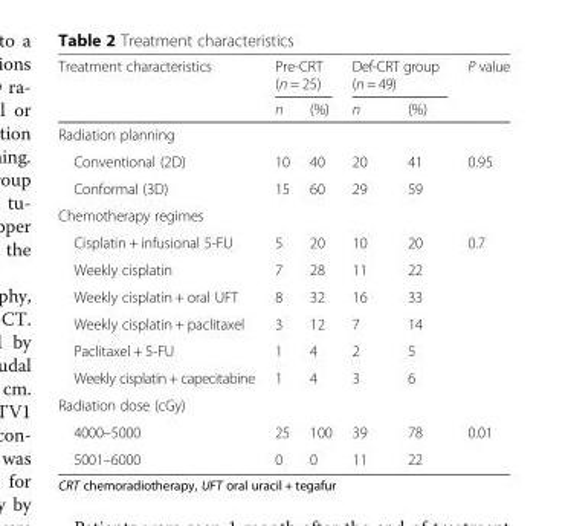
<table><thead><tr><td rowspan="2">Treatment characteristics</td><td colspan="2">Pre-CRT (n = 25)</td><td colspan="2">Def-CRT group (n = 49)</td><td rowspan="2">P value</td></tr><tr><td>n</td><td>(%)</td><td>n</td><td>(%)</td></tr></thead><tbody><tr><td colspan="6">Radiation planning</td></tr><tr><td>Conventional (2D)</td><td>10</td><td>40</td><td>20</td><td>41</td><td rowspan="2">0.95</td></tr><tr><td>Conformal (3D)</td><td>15</td><td>60</td><td>29</td><td>59</td></tr><tr><td colspan="6">Chemotherapy regimes</td></tr><tr><td>Cisplatin + infusional 5-FU</td><td>5</td><td>20</td><td>10</td><td>20</td><td rowspan="6">0.7</td></tr><tr><td>Weekly cisplatin</td><td>7</td><td>28</td><td>11</td><td>22</td></tr><tr><td>Weekly cisplatin + oral UFT</td><td>8</td><td>32</td><td>16</td><td>33</td></tr><tr><td>Weekly cisplatin + paclitaxel</td><td>3</td><td>12</td><td>7</td><td>14</td></tr><tr><td>Paclitaxel + 5-FU</td><td>1</td><td>4</td><td>2</td><td>5</td></tr><tr><td>Weekly cisplatin + capecitabine</td><td>1</td><td>4</td><td>3</td><td>6</td></tr><tr><td colspan="6">Radiation dose (cGy)</td></tr><tr><td>4000–5000</td><td>25</td><td>100</td><td>39</td><td>78</td><td rowspan="2">0.01</td></tr><tr><td>5001–6000</td><td>0</td><td>0</td><td>11</td><td>22</td></tr></tbody></table>